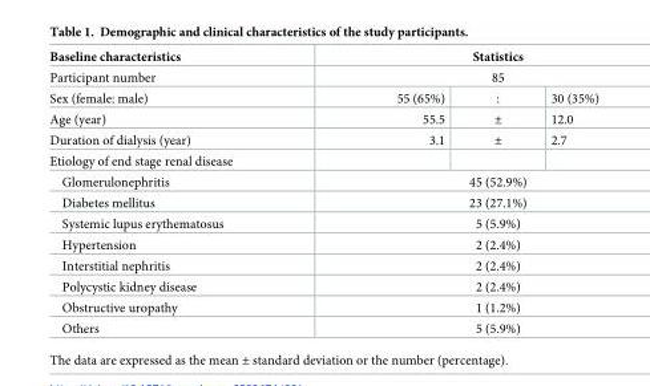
<table><thead><tr><td rowspan="3">Baseline characteristics Participant number Sex (female: male)</td><td rowspan="2" colspan="3">Statistics 85</td></tr><tr></tr><tr><td>55 (65%)</td><td>:</td><td>30 (35%)</td></tr></thead><tbody><tr><td>Age (year)</td><td>55.5</td><td>±</td><td>12.0</td></tr><tr><td>Duration of dialysis (year)</td><td>3.1</td><td>±</td><td>2.7</td></tr><tr><td colspan="4">Etiology of end stage renal disease</td></tr><tr><td>Glomerulonephritis</td><td colspan="3">45 (52.9%)</td></tr><tr><td>Diabetes mellitus</td><td colspan="3">23 (27.1%)</td></tr><tr><td>Systemic lupus erythematosus</td><td colspan="3">5 (5.9%)</td></tr><tr><td>Hypertension</td><td colspan="3">2 (2.4%)</td></tr><tr><td>Interstitial nephritis</td><td colspan="3">2 (2.4%)</td></tr><tr><td>Polycystic kidney disease</td><td colspan="3">2 (2.4%)</td></tr><tr><td>Obstructive uropathy</td><td colspan="3">1 (1.2%)</td></tr><tr><td>Others</td><td colspan="3">5 (5.9%)</td></tr></tbody></table>